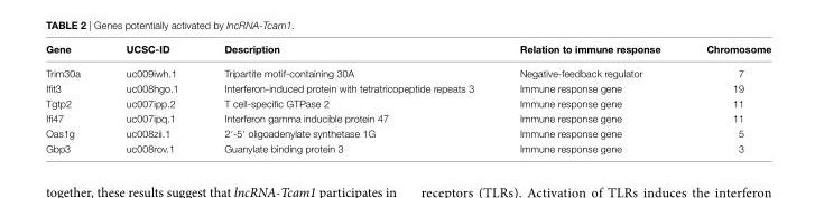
<table><thead><tr><td>gene</td><td>Ucsc-iD</td><td>Description</td><td>relation to immune response</td><td>chromosome</td></tr></thead><tbody><tr><td>Trim30a</td><td>uc009iwh.1</td><td>Tripartite motif-containing 30A</td><td>Negative-feedback regulator</td><td>7</td></tr><tr><td>Ifit3</td><td>uc008hgo.1</td><td>Interferon-induced protein with tetratricopeptide repeats 3</td><td>Immune response gene</td><td>19</td></tr><tr><td>Tgtp2</td><td>uc007ipp.2</td><td>T cell-specific GTPase 2</td><td>Immune response gene</td><td>11</td></tr><tr><td>Ifi47</td><td>uc007ipq.1</td><td>Interferon gamma inducible protein 47</td><td>Immune response gene</td><td>11</td></tr><tr><td>Oas1g</td><td>uc008zii.1</td><td>2′-5′ oligoadenylate synthetase 1G</td><td>Immune response gene</td><td>5</td></tr><tr><td>Gbp3</td><td>uc008rov.1</td><td>Guanylate binding protein 3</td><td>Immune response gene</td><td>3</td></tr></tbody></table>